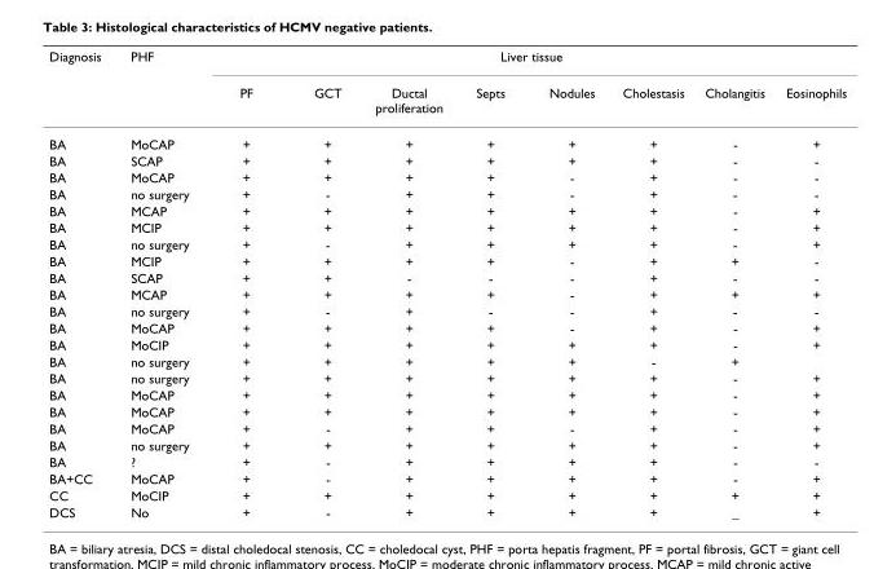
<table><thead><tr><td rowspan="2">Diagnosis</td><td rowspan="2">PHF</td><td colspan="8">Liver tissue</td></tr><tr><td>PF</td><td>GCT</td><td>Ductal proliferation</td><td>Septs</td><td>Nodules</td><td>Cholestasis</td><td>Cholangitis</td><td>Eosinophils</td></tr></thead><tbody><tr><td>BA</td><td>MoCAP</td><td>+</td><td>+</td><td>+</td><td>+</td><td>+</td><td>+</td><td>-</td><td>+</td></tr><tr><td>BA</td><td>SCAP</td><td>+</td><td>+</td><td>+</td><td>+</td><td>+</td><td>+</td><td>-</td><td>-</td></tr><tr><td>BA</td><td>MoCAP</td><td>+</td><td>+</td><td>+</td><td>+</td><td>-</td><td>+</td><td>-</td><td>-</td></tr><tr><td>BA</td><td>no surgery</td><td>+</td><td>-</td><td>+</td><td>+</td><td>-</td><td>+</td><td>-</td><td>-</td></tr><tr><td>BA</td><td>MCAP</td><td>+</td><td>+</td><td>+</td><td>+</td><td>+</td><td>+</td><td>-</td><td>+</td></tr><tr><td>BA</td><td>MCIP</td><td>+</td><td>+</td><td>+</td><td>+</td><td>+</td><td>+</td><td>-</td><td>+</td></tr><tr><td>BA</td><td>no surgery</td><td>+</td><td>-</td><td>+</td><td>+</td><td>+</td><td>+</td><td>-</td><td>+</td></tr><tr><td>BA</td><td>MCIP</td><td>+</td><td>+</td><td>+</td><td>+</td><td>-</td><td>+</td><td>+</td><td>-</td></tr><tr><td>BA</td><td>SCAP</td><td>+</td><td>+</td><td>-</td><td>-</td><td>-</td><td>+</td><td>-</td><td>-</td></tr><tr><td>BA</td><td>MCAP</td><td>+</td><td>+</td><td>+</td><td>+</td><td>-</td><td>+</td><td>+</td><td>+</td></tr><tr><td>BA</td><td>no surgery</td><td>+</td><td>-</td><td>+</td><td>-</td><td>-</td><td>+</td><td>-</td><td>-</td></tr><tr><td>BA</td><td>MoCAP</td><td>+</td><td>+</td><td>+</td><td>+</td><td>-</td><td>+</td><td>-</td><td>+</td></tr><tr><td>BA</td><td>MoCIP</td><td>+</td><td>+</td><td>+</td><td>+</td><td>+</td><td>+</td><td>-</td><td>+</td></tr><tr><td>BA</td><td>no surgery</td><td>+</td><td>+</td><td>+</td><td>+</td><td>+</td><td>-</td><td>+</td><td></td></tr><tr><td>BA</td><td>no surgery</td><td>+</td><td>+</td><td>+</td><td>+</td><td>+</td><td>+</td><td>-</td><td>+</td></tr><tr><td>BA</td><td>MoCAP</td><td>+</td><td>+</td><td>+</td><td>+</td><td>+</td><td>+</td><td>-</td><td>+</td></tr><tr><td>BA</td><td>MoCAP</td><td>+</td><td>+</td><td>+</td><td>+</td><td>+</td><td>+</td><td>-</td><td>+</td></tr><tr><td>BA</td><td>MoCAP</td><td>+</td><td>-</td><td>+</td><td>+</td><td>-</td><td>+</td><td>-</td><td>+</td></tr><tr><td>BA</td><td>no surgery</td><td>+</td><td>+</td><td>+</td><td>+</td><td>+</td><td>+</td><td>-</td><td>+</td></tr><tr><td>BA</td><td>?</td><td>+</td><td>-</td><td>+</td><td>+</td><td>+</td><td>+</td><td>-</td><td>-</td></tr><tr><td>BA+CC</td><td>MoCAP</td><td>+</td><td>-</td><td>+</td><td>+</td><td>+</td><td>+</td><td>-</td><td>+</td></tr><tr><td>CC</td><td>MoCIP</td><td>+</td><td>+</td><td>+</td><td>+</td><td>+</td><td>+</td><td>+</td><td>+</td></tr><tr><td>DCS</td><td>No</td><td>+</td><td>-</td><td>+</td><td>+</td><td>+</td><td>+</td><td>_</td><td>+</td></tr></tbody></table>